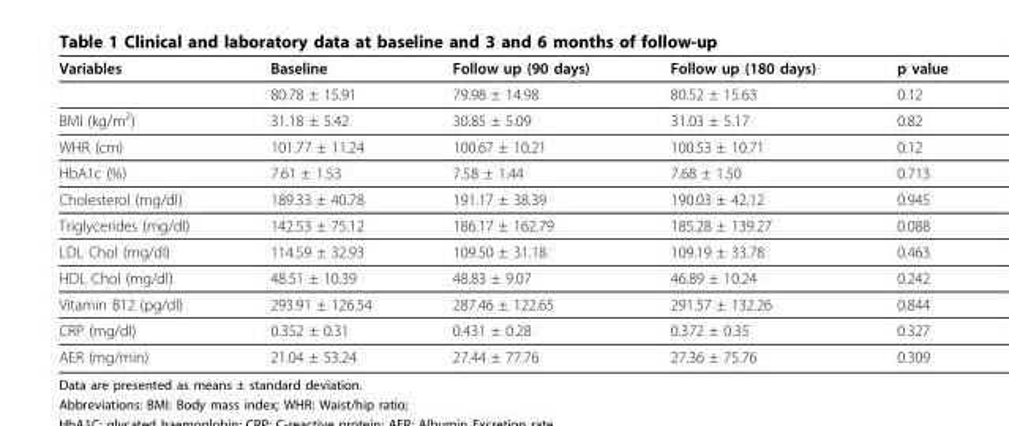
<table><thead><tr><td>Variables</td><td>Baseline</td><td>Follow up (90 days)</td><td>Follow up (180 days)</td><td>p value</td></tr></thead><tbody><tr><td></td><td>80.78 ± 15.91</td><td>79.98 ± 14.98</td><td>80.52 ± 15.63</td><td>0.12</td></tr><tr><td>BMI (kg/m<sup>2</sup>)</td><td>31.18 ± 5.42</td><td>30.85 ± 5.09</td><td>31.03 ± 5.17</td><td>0.82</td></tr><tr><td>WHR (cm)</td><td>101.77 ± 11.24</td><td>100.67 ± 10.21</td><td>100.53 ± 10.71</td><td>0.12</td></tr><tr><td>HbA1c (%)</td><td>7.61 ± 1.53</td><td>7.58 ± 1.44</td><td>7.68 ± 1.50</td><td>0.713</td></tr><tr><td>Cholesterol (mg/dl)</td><td>189.33 ± 40.78</td><td>191.17 ± 38.39</td><td>190.03 ± 42.12</td><td>0.945</td></tr><tr><td>Triglycerides (mg/dl)</td><td>142.53 ± 75.12</td><td>186.17 ± 162.79</td><td>185.28 ± 139.27</td><td>0.088</td></tr><tr><td>LDL Chol (mg/dl)</td><td>114.59 ± 32.93</td><td>109.50 ± 31.18</td><td>109.19 ± 33.78</td><td>0.463</td></tr><tr><td>HDL Chol (mg/dl)</td><td>48.51 ± 10.39</td><td>48.83 ± 9.07</td><td>46.89 ± 10.24</td><td>0.242</td></tr><tr><td>Vitamin B12 (pg/dl)</td><td>293.91 ± 126.54</td><td>287.46 ± 122.65</td><td>291.57 ± 132.26</td><td>0.844</td></tr><tr><td>CRP (mg/dl)</td><td>0.352 ± 0.31</td><td>0.431 ± 0.28</td><td>0.372 ± 0.35</td><td>0.327</td></tr><tr><td>AER (mg/min)</td><td>21.04 ± 53.24</td><td>27.44 ± 77.76</td><td>27.36 ± 75.76</td><td>0.309</td></tr></tbody></table>